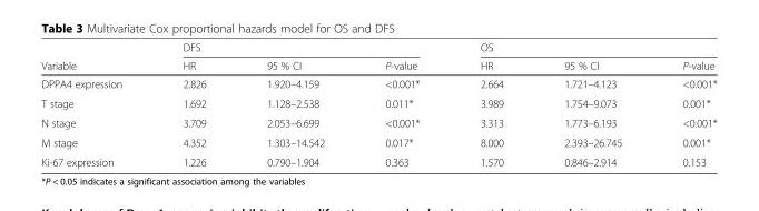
<table><thead><tr><td rowspan="2">Variable</td><td colspan="3">DFS</td><td colspan="3">OS</td></tr><tr><td>HR</td><td>95 % CI</td><td>P-value</td><td>HR</td><td>95 % CI</td><td>P-value</td></tr></thead><tbody><tr><td>DPPA4 expression</td><td>2.826</td><td>1.920–4.159</td><td>&lt;0.001*</td><td>2.664</td><td>1.721–4.123</td><td>&lt;0.001*</td></tr><tr><td>T stage</td><td>1.692</td><td>1.128–2.538</td><td>0.011*</td><td>3.989</td><td>1.754–9.073</td><td>0.001*</td></tr><tr><td>N stage</td><td>3.709</td><td>2.053–6.699</td><td>&lt;0.001*</td><td>3.313</td><td>1.773–6.193</td><td>&lt;0.001*</td></tr><tr><td>M stage</td><td>4.352</td><td>1.303–14.542</td><td>0.017*</td><td>8.000</td><td>2.393–26.745</td><td>0.001*</td></tr><tr><td>Ki-67 expression</td><td>1.226</td><td>0.790–1.904</td><td>0.363</td><td>1.570</td><td>0.846–2.914</td><td>0.153</td></tr></tbody></table>